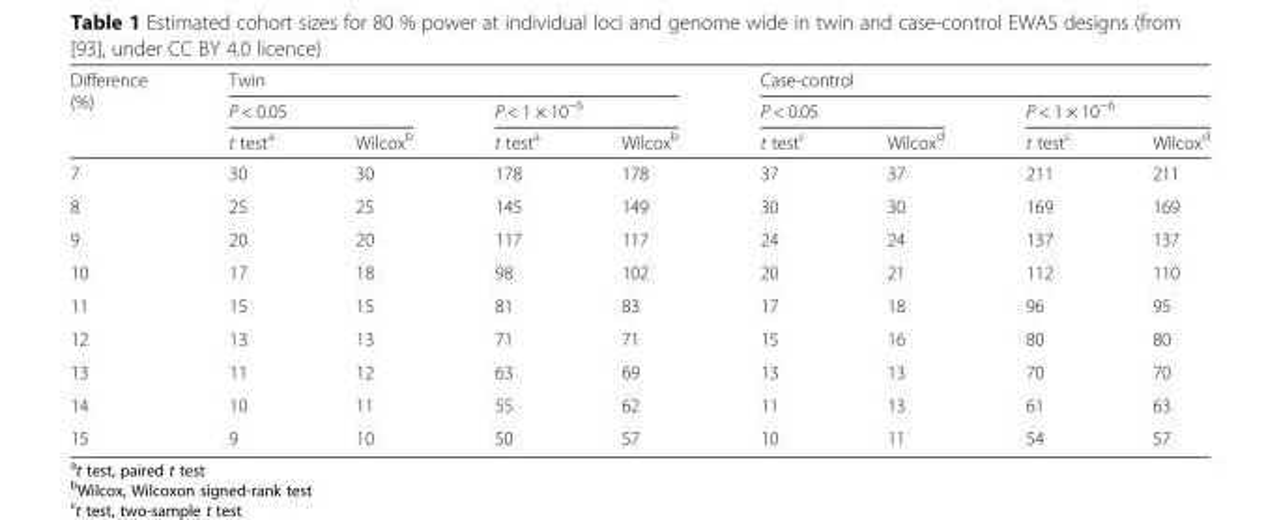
<table><thead><tr><td rowspan="3">Difference (%)</td><td colspan="4">Twin</td><td colspan="4">Case-control</td></tr><tr><td colspan="2">P &lt; 0.05</td><td colspan="2">P &lt; 1 × 10<sup>−6</sup></td><td colspan="2">P &lt; 0.05</td><td colspan="2">P &lt; 1 × 10<sup>−6</sup></td></tr><tr><td>t test<sup>a</sup></td><td>Wilcox<sup>b</sup></td><td>t test<sup>a</sup></td><td>Wilcox<sup>b</sup></td><td>t test<sup>c</sup></td><td>Wilcox<sup>d</sup></td><td>t test<sup>c</sup></td><td>Wilcox<sup>d</sup></td></tr></thead><tbody><tr><td>7</td><td>30</td><td>30</td><td>178</td><td>178</td><td>37</td><td>37</td><td>211</td><td>211</td></tr><tr><td>8</td><td>25</td><td>25</td><td>145</td><td>149</td><td>30</td><td>30</td><td>169</td><td>169</td></tr><tr><td>9</td><td>20</td><td>20</td><td>117</td><td>117</td><td>24</td><td>24</td><td>137</td><td>137</td></tr><tr><td>10</td><td>17</td><td>18</td><td>98</td><td>102</td><td>20</td><td>21</td><td>112</td><td>110</td></tr><tr><td>11</td><td>15</td><td>15</td><td>81</td><td>83</td><td>17</td><td>18</td><td>96</td><td>95</td></tr><tr><td>12</td><td>13</td><td>13</td><td>71</td><td>71</td><td>15</td><td>16</td><td>80</td><td>80</td></tr><tr><td>13</td><td>11</td><td>12</td><td>63</td><td>69</td><td>13</td><td>13</td><td>70</td><td>70</td></tr><tr><td>14</td><td>10</td><td>11</td><td>55</td><td>62</td><td>11</td><td>13</td><td>61</td><td>63</td></tr><tr><td>15</td><td>9</td><td>10</td><td>50</td><td>57</td><td>10</td><td>11</td><td>54</td><td>57</td></tr></tbody></table>